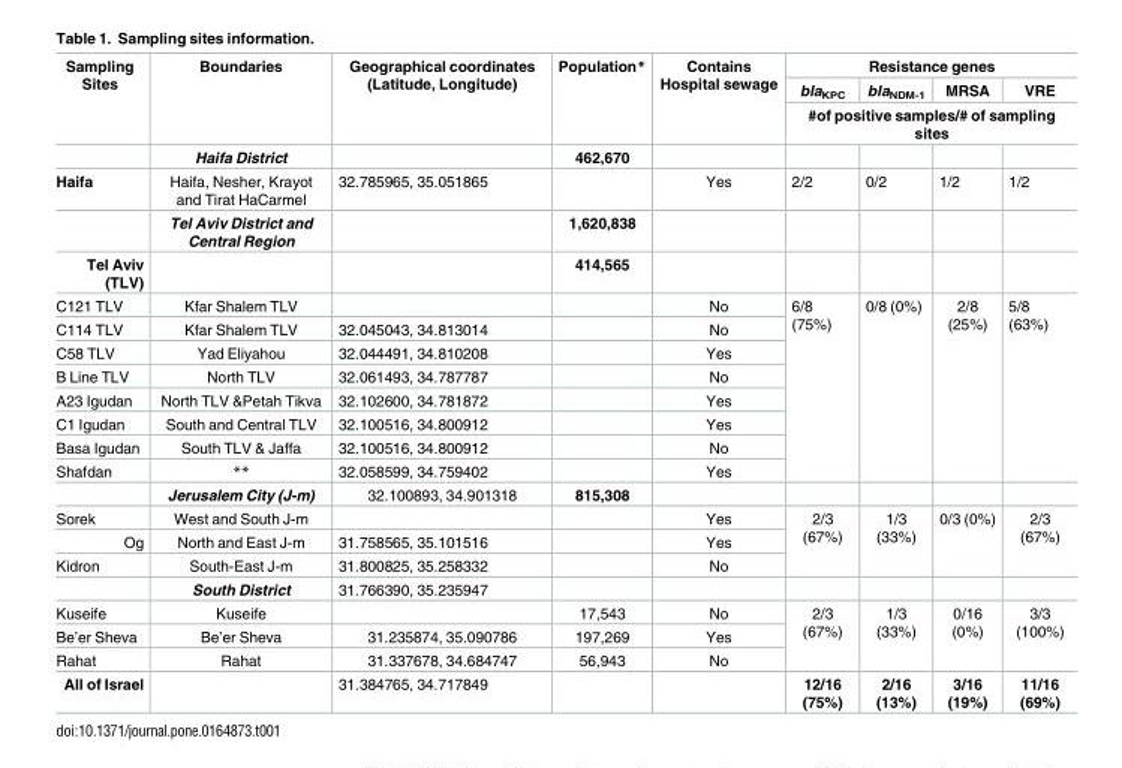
<table><thead><tr><td rowspan="3">Sampling Sites</td><td rowspan="3">Boundaries</td><td rowspan="3">Geographical coordinates (Latitude, Longitude)</td><td rowspan="3">Population*</td><td rowspan="3">Contains Hospital sewage</td><td colspan="4">Resistance genes</td></tr><tr><td>bla<sub>KPC</sub></td><td>bla<sub>NDM-1</sub></td><td>MRSA</td><td>VRE</td></tr><tr><td colspan="4">#of positive samples/# of sampling sites</td></tr></thead><tbody><tr><td></td><td>Haifa District</td><td></td><td>462,670</td><td></td><td></td><td></td><td></td><td></td></tr><tr><td rowspan="2">Haifa</td><td>Haifa, Nesher, Krayot and Tirat HaCarmel</td><td>32.785965, 35.051865</td><td></td><td>Yes</td><td>2/2</td><td>0/2</td><td>1/2</td><td>1/2</td></tr><tr><td>Tel Aviv District and Central Region</td><td></td><td>1,620,838</td><td></td><td></td><td></td><td></td><td></td></tr><tr><td>Tel Aviv (TLV)</td><td></td><td></td><td>414,565</td><td></td><td></td><td></td><td></td><td></td></tr><tr><td>C121 TLV</td><td>Kfar Shalem TLV</td><td></td><td></td><td>No</td><td rowspan="8">6/8 (75%)</td><td rowspan="8">0/8 (0%)</td><td rowspan="8">2/8 (25%)</td><td rowspan="8">5/8 (63%)</td></tr><tr><td>C114 TLV</td><td>Kfar Shalem TLV</td><td>32.045043, 34.813014</td><td></td><td>No</td></tr><tr><td>C58 TLV</td><td>Yad Eliyahou</td><td>32.044491, 34.810208</td><td></td><td>Yes</td></tr><tr><td>B Line TLV</td><td>North TLV</td><td>32.061493, 34.787787</td><td></td><td>No</td></tr><tr><td>A23 Igudan</td><td>North TLV &amp;Petah Tikva</td><td>32.102600, 34.781872</td><td></td><td>Yes</td></tr><tr><td>C1 Igudan</td><td>South and Central TLV</td><td>32.100516, 34.800912</td><td></td><td>Yes</td></tr><tr><td>Basa Igudan</td><td>South TLV &amp; Jaffa</td><td>32.100516, 34.800912</td><td></td><td>No</td></tr><tr><td rowspan="2">Shafdan</td><td>**</td><td>32.058599, 34.759402</td><td></td><td>Yes</td></tr><tr><td>Jerusalem City (J-m)</td><td>32.100893, 34.901318</td><td>815,308</td><td></td><td></td><td></td><td></td><td></td></tr><tr><td>Sorek</td><td>West and South J-m</td><td></td><td></td><td>Yes</td><td rowspan="3">2/3 (67%)</td><td rowspan="3">1/3 (33%)</td><td rowspan="3">0/3 (0%)</td><td rowspan="3">2/3 (67%)</td></tr><tr><td>Og</td><td>North and East J-m</td><td>31.758565, 35.101516</td><td></td><td>Yes</td></tr><tr><td rowspan="2">Kidron</td><td>South-East J-m</td><td>31.800825, 35.258332</td><td></td><td>No</td></tr><tr><td>South District</td><td>31.766390, 35.235947</td><td></td><td></td><td></td><td></td><td></td><td></td></tr><tr><td>Kuseife</td><td>Kuseife</td><td></td><td>17,543</td><td>No</td><td rowspan="3">2/3 (67%)</td><td rowspan="3">1/3 (33%)</td><td rowspan="3">0/16 (0%)</td><td rowspan="3">3/3 (100%)</td></tr><tr><td>Be’er Sheva</td><td>Be’er Sheva</td><td>31.235874, 35.090786</td><td>197,269</td><td>Yes</td></tr><tr><td>Rahat</td><td>Rahat</td><td>31.337678, 34.684747</td><td>56,943</td><td>No</td></tr><tr><td>All of Israel</td><td></td><td>31.384765, 34.717849</td><td></td><td></td><td>12/16 (75%)</td><td>2/16 (13%)</td><td>3/16 (19%)</td><td>11/16 (69%)</td></tr></tbody></table>